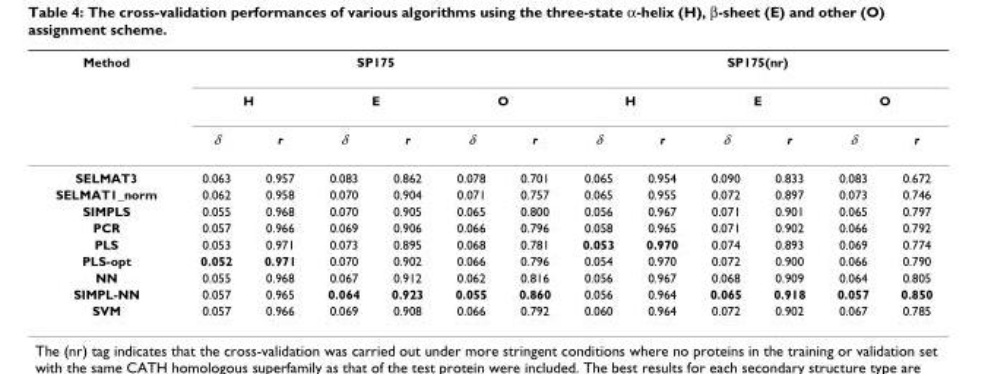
<table><thead><tr><td rowspan="3">Method</td><td colspan="6">SP175</td><td colspan="6">SP175(nr)</td></tr><tr><td colspan="2">H</td><td colspan="2">E</td><td colspan="2">O</td><td colspan="2">H</td><td colspan="2">E</td><td colspan="2">O</td></tr><tr><td>δ</td><td>r</td><td>δ</td><td>r</td><td>δ</td><td>r</td><td>δ</td><td>r</td><td>δ</td><td>r</td><td>δ</td><td>r</td></tr></thead><tbody><tr><td>SELMAT3</td><td>0.063</td><td>0.957</td><td>0.083</td><td>0.862</td><td>0.078</td><td>0.701</td><td>0.065</td><td>0.954</td><td>0.090</td><td>0.833</td><td>0.083</td><td>0.672</td></tr><tr><td>SELMAT1_norm</td><td>0.062</td><td>0.958</td><td>0.070</td><td>0.904</td><td>0.071</td><td>0.757</td><td>0.065</td><td>0.955</td><td>0.072</td><td>0.897</td><td>0.073</td><td>0.746</td></tr><tr><td>SIMPLS</td><td>0.055</td><td>0.968</td><td>0.070</td><td>0.905</td><td>0.065</td><td>0.800</td><td>0.056</td><td>0.967</td><td>0.071</td><td>0.901</td><td>0.065</td><td>0.797</td></tr><tr><td>PCR</td><td>0.057</td><td>0.966</td><td>0.069</td><td>0.906</td><td>0.066</td><td>0.796</td><td>0.058</td><td>0.965</td><td>0.071</td><td>0.902</td><td>0.066</td><td>0.792</td></tr><tr><td>PLS</td><td>0.053</td><td>0.971</td><td>0.073</td><td>0.895</td><td>0.068</td><td>0.781</td><td>0.053</td><td>0.970</td><td>0.074</td><td>0.893</td><td>0.069</td><td>0.774</td></tr><tr><td>PLS-opt</td><td>0.052</td><td>0.971</td><td>0.070</td><td>0.902</td><td>0.066</td><td>0.796</td><td>0.054</td><td>0.970</td><td>0.072</td><td>0.900</td><td>0.066</td><td>0.790</td></tr><tr><td>NN</td><td>0.055</td><td>0.968</td><td>0.067</td><td>0.912</td><td>0.062</td><td>0.816</td><td>0.056</td><td>0.967</td><td>0.068</td><td>0.909</td><td>0.064</td><td>0.805</td></tr><tr><td>SIMPL-NN</td><td>0.057</td><td>0.965</td><td>0.064</td><td>0.923</td><td>0.055</td><td>0.860</td><td>0.056</td><td>0.964</td><td>0.065</td><td>0.918</td><td>0.057</td><td>0.850</td></tr><tr><td>SVM</td><td>0.057</td><td>0.966</td><td>0.069</td><td>0.908</td><td>0.066</td><td>0.792</td><td>0.060</td><td>0.964</td><td>0.072</td><td>0.902</td><td>0.067</td><td>0.785</td></tr></tbody></table>